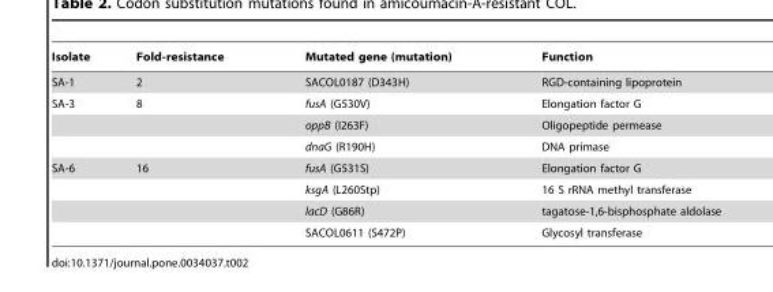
<table><thead><tr><td>Isolate</td><td>Fold-resistance</td><td>Mutated gene (mutation)</td><td>Function</td></tr></thead><tbody><tr><td>SA-1</td><td>2</td><td>SACOL0187 (D343H)</td><td>RGD-containing lipoprotein</td></tr><tr><td rowspan="3">SA-3</td><td>8</td><td>fusA (G530V)</td><td>Elongation factor G</td></tr><tr><td></td><td>oppB (I263F)</td><td>Oligopeptide permease</td></tr><tr><td></td><td>dnaG (R190H)</td><td>DNA primase</td></tr><tr><td rowspan="4">SA-6</td><td>16</td><td>fusA (G531S)</td><td>Elongation factor G</td></tr><tr><td></td><td>ksgA (L260Stp)</td><td>16 S rRNA methyl transferase</td></tr><tr><td></td><td>lacD (G86R)</td><td>tagatose-1,6-bisphosphate aldolase</td></tr><tr><td></td><td>SACOL0611 (S472P)</td><td>Glycosyl transferase</td></tr></tbody></table>